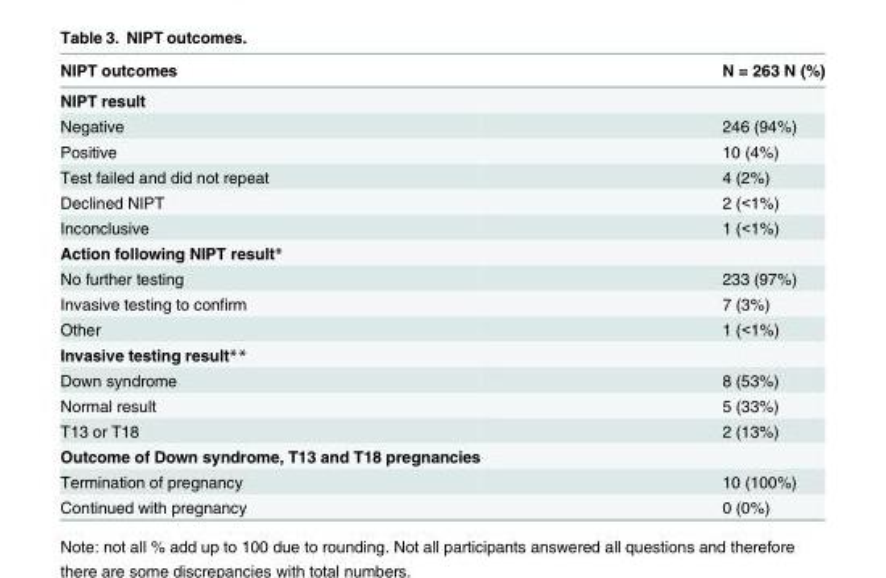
<table><thead><tr><td>NIPT outcomes</td><td>N = 263 N (%)</td></tr></thead><tbody><tr><td colspan="2">NIPT result</td></tr><tr><td>Negative</td><td>246 (94%)</td></tr><tr><td>Positive</td><td>10 (4%)</td></tr><tr><td>Test failed and did not repeat</td><td>4 (2%)</td></tr><tr><td>Declined NIPT</td><td>2 (&lt;1%)</td></tr><tr><td>Inconclusive</td><td>1 (&lt;1%)</td></tr><tr><td colspan="2">Action following NIPT result*</td></tr><tr><td>No further testing</td><td>233 (97%)</td></tr><tr><td>Invasive testing to confirm</td><td>7 (3%)</td></tr><tr><td>Other</td><td>1 (&lt;1%)</td></tr><tr><td colspan="2">Invasive testing result**</td></tr><tr><td>Down syndrome</td><td>8 (53%)</td></tr><tr><td>Normal result</td><td>5 (33%)</td></tr><tr><td>T13 or T18</td><td>2 (13%)</td></tr><tr><td colspan="2">Outcome of Down syndrome, T13 and T18 pregnancies</td></tr><tr><td>Termination of pregnancy</td><td>10 (100%)</td></tr><tr><td>Continued with pregnancy</td><td>0 (0%)</td></tr></tbody></table>